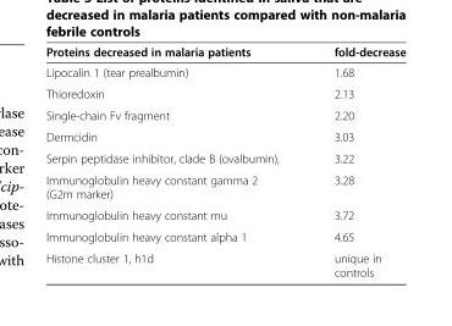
<table><thead><tr><td>Proteins decreased in malaria patients</td><td>fold-decrease</td></tr></thead><tbody><tr><td>Lipocalin 1 (tear prealbumin)</td><td>1.68</td></tr><tr><td>Thioredoxin</td><td>2.13</td></tr><tr><td>Single-chain Fv fragment</td><td>2.20</td></tr><tr><td>Dermcidin</td><td>3.03</td></tr><tr><td>Serpin peptidase inhibitor, clade B (ovalbumin),</td><td>3.22</td></tr><tr><td>Immunoglobulin heavy constant gamma 2 (G2m marker)</td><td>3.28</td></tr><tr><td>Immunoglobulin heavy constant mu</td><td>3.72</td></tr><tr><td>Immunoglobulin heavy constant alpha 1</td><td>4.65</td></tr><tr><td>Histone cluster 1, h1d</td><td>unique in controls</td></tr></tbody></table>